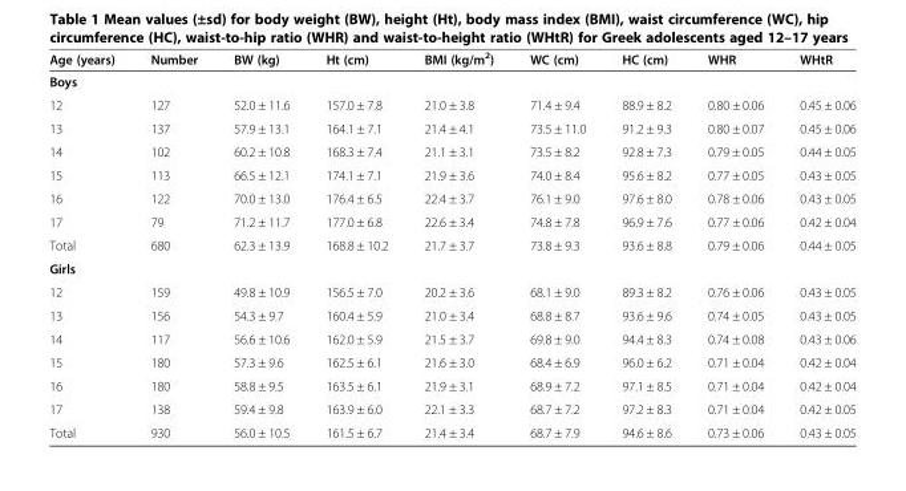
<table><thead><tr><td>Age (years)</td><td>Number</td><td>BW (kg)</td><td>Ht (cm)</td><td>ΒΜΙ (kg/m<sup>2</sup>)</td><td>WC (cm)</td><td>HC (cm)</td><td>WHR</td><td>WHtR</td></tr></thead><tbody><tr><td colspan="9">Boys</td></tr><tr><td>12</td><td>127</td><td>52.0 ± 11.6</td><td>157.0 ± 7.8</td><td>21.0 ± 3.8</td><td>71.4 ± 9.4</td><td>88.9 ± 8.2</td><td>0.80 ± 0.06</td><td>0.45 ± 0.06</td></tr><tr><td>13</td><td>137</td><td>57.9 ± 13.1</td><td>164.1 ± 7.1</td><td>21.4 ± 4.1</td><td>73.5 ± 11.0</td><td>91.2 ± 9.3</td><td>0.80 ± 0.07</td><td>0.45 ± 0.06</td></tr><tr><td>14</td><td>102</td><td>60.2 ± 10.8</td><td>168.3 ± 7.4</td><td>21.1 ± 3.1</td><td>73.5 ± 8.2</td><td>92.8 ± 7.3</td><td>0.79 ± 0.05</td><td>0.44 ± 0.05</td></tr><tr><td>15</td><td>113</td><td>66.5 ± 12.1</td><td>174.1 ± 7.1</td><td>21.9 ± 3.6</td><td>74.0 ± 8.4</td><td>95.6 ± 8.2</td><td>0.77 ± 0.05</td><td>0.43 ± 0.05</td></tr><tr><td>16</td><td>122</td><td>70.0 ± 13.0</td><td>176.4 ± 6.5</td><td>22.4 ± 3.7</td><td>76.1 ± 9.0</td><td>97.6 ± 8.0</td><td>0.78 ± 0.06</td><td>0.43 ± 0.05</td></tr><tr><td>17</td><td>79</td><td>71.2 ± 11.7</td><td>177.0 ± 6.8</td><td>22.6 ± 3.4</td><td>74.8 ± 7.8</td><td>96.9 ± 7.6</td><td>0.77 ± 0.06</td><td>0.42 ± 0.04</td></tr><tr><td>Total</td><td>680</td><td>62.3 ± 13.9</td><td>168.8 ± 10.2</td><td>21.7 ± 3.7</td><td>73.8 ± 9.3</td><td>93.6 ± 8.8</td><td>0.79 ± 0.06</td><td>0.44 ± 0.05</td></tr><tr><td colspan="9">Girls</td></tr><tr><td>12</td><td>159</td><td>49.8 ± 10.9</td><td>156.5 ± 7.0</td><td>20.2 ± 3.6</td><td>68.1 ± 9.0</td><td>89.3 ± 8.2</td><td>0.76 ± 0.06</td><td>0.43 ± 0.05</td></tr><tr><td>13</td><td>156</td><td>54.3 ± 9.7</td><td>160.4 ± 5.9</td><td>21.0 ± 3.4</td><td>68.8 ± 8.7</td><td>93.6 ± 9.6</td><td>0.74 ± 0.05</td><td>0.43 ± 0.05</td></tr><tr><td>14</td><td>117</td><td>56.6 ± 10.6</td><td>162.0 ± 5.9</td><td>21.5 ± 3.7</td><td>69.8 ± 9.0</td><td>94.4 ± 8.3</td><td>0.74 ± 0.08</td><td>0.43 ± 0.06</td></tr><tr><td>15</td><td>180</td><td>57.3 ± 9.6</td><td>162.5 ± 6.1</td><td>21.6 ± 3.0</td><td>68.4 ± 6.9</td><td>96.0 ± 6.2</td><td>0.71 ± 0.04</td><td>0.42 ± 0.04</td></tr><tr><td>16</td><td>180</td><td>58.8 ± 9.5</td><td>163.5 ± 6.1</td><td>21.9 ± 3.1</td><td>68.9 ± 7.2</td><td>97.1 ± 8.5</td><td>0.71 ± 0.04</td><td>0.42 ± 0.04</td></tr><tr><td>17</td><td>138</td><td>59.4 ± 9.8</td><td>163.9 ± 6.0</td><td>22.1 ± 3.3</td><td>68.7 ± 7.2</td><td>97.2 ± 8.3</td><td>0.71 ± 0.04</td><td>0.42 ± 0.05</td></tr><tr><td>Total</td><td>930</td><td>56.0 ± 10.5</td><td>161.5 ± 6.7</td><td>21.4 ± 3.4</td><td>68.7 ± 7.9</td><td>94.6 ± 8.6</td><td>0.73 ± 0.06</td><td>0.43 ± 0.05</td></tr></tbody></table>